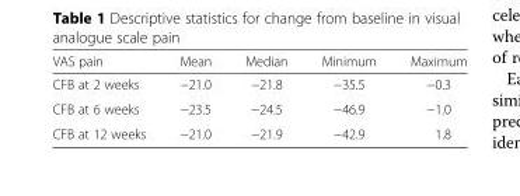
<table><thead><tr><td>VAS pain</td><td>Mean</td><td>Median</td><td>Minimum</td><td>Maximum</td></tr></thead><tbody><tr><td>CFB at 2 weeks</td><td>−21.0</td><td>−21.8</td><td>−35.5</td><td>−0.3</td></tr><tr><td>CFB at 6 weeks</td><td>−23.5</td><td>−24.5</td><td>−46.9</td><td>−1.0</td></tr><tr><td>CFB at 12 weeks</td><td>−21.0</td><td>−21.9</td><td>−42.9</td><td>1.8</td></tr></tbody></table>